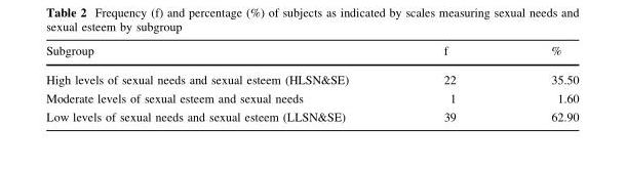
<table><thead><tr><td>Subgroup</td><td>f</td><td>%</td></tr></thead><tbody><tr><td>High levels of sexual needs and sexual esteem (HLSN&amp;SE)</td><td>22</td><td>35.50</td></tr><tr><td>Moderate levels of sexual esteem and sexual needs</td><td>1</td><td>1.60</td></tr><tr><td>Low levels of sexual needs and sexual esteem (LLSN&amp;SE)</td><td>39</td><td>62.90</td></tr></tbody></table>